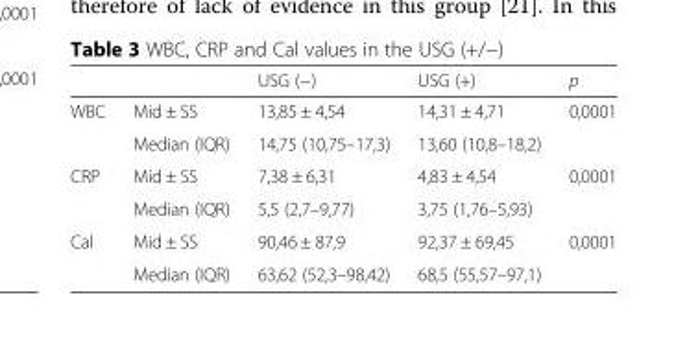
<table><thead><tr><td></td><td></td><td>USG (−)</td><td>USG (+)</td><td>p</td></tr></thead><tbody><tr><td rowspan="2">WBC</td><td>Mid ± SS</td><td>13,85 ± 4,54</td><td>14,31 ± 4,71</td><td rowspan="2">0,0001</td></tr><tr><td>Median (IQR)</td><td>14,75 (10,75–17,3)</td><td>13,60 (10,8–18,2)</td></tr><tr><td rowspan="2">CRP</td><td>Mid ± SS</td><td>7,38 ± 6,31</td><td>4,83 ± 4,54</td><td rowspan="2">0,0001</td></tr><tr><td>Median (IQR)</td><td>5,5 (2,7–9,77)</td><td>3,75 (1,76–5,93)</td></tr><tr><td rowspan="2">Cal</td><td>Mid ± SS</td><td>90,46 ± 87,9</td><td>92,37 ± 69,45</td><td rowspan="2">0,0001</td></tr><tr><td>Median (IQR)</td><td>63,62 (52,3–98,42)</td><td>68,5 (55,57–97,1)</td></tr></tbody></table>